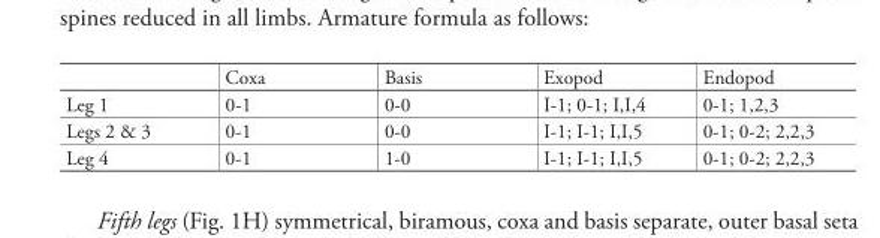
<table><thead><tr><td></td><td>Coxa</td><td>Basis</td><td>Exopod</td><td>Endopod</td></tr></thead><tbody><tr><td>Leg 1</td><td>0-1</td><td>0-0</td><td>I-1; 0-1; I,I,4</td><td>0-1; 1,2,3</td></tr><tr><td>Legs 2 &amp; 3</td><td>0-1</td><td>0-0</td><td>I-1; I-1; I,I,5</td><td>0-1; 0-2; 2,2,3</td></tr><tr><td>Leg 4</td><td>0-1</td><td>1-0</td><td>I-1; I-1; I,I,5</td><td>0-1; 0-2; 2,2,3</td></tr></tbody></table>